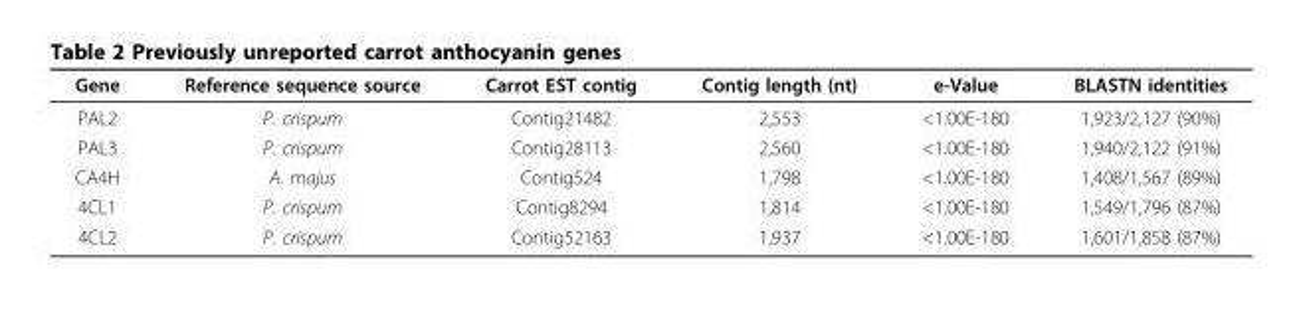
<table><thead><tr><td>Gene</td><td>Reference sequence source</td><td>Carrot EST contig</td><td>Contig length (nt)</td><td>e-Value</td><td>BLASTN identities</td></tr></thead><tbody><tr><td>PAL2</td><td>P. crispum</td><td>Contig21482</td><td>2,553</td><td>&lt;1.00E-180</td><td>1,923/2,127 (90%)</td></tr><tr><td>PAL3</td><td>P. crispum</td><td>Contig28113</td><td>2,560</td><td>&lt;1.00E-180</td><td>1,940/2,122 (91%)</td></tr><tr><td>CA4H</td><td>A. majus</td><td>Contig524</td><td>1,798</td><td>&lt;1.00E-180</td><td>1,408/1,567 (89%)</td></tr><tr><td>4CL1</td><td>P. crispum</td><td>Contig8294</td><td>1,814</td><td>&lt;1.00E-180</td><td>1,549/1,796 (87%)</td></tr><tr><td>4CL2</td><td>P. crispum</td><td>Contig52163</td><td>1,937</td><td>&lt;1.00E-180</td><td>1,601/1,858 (87%)</td></tr></tbody></table>